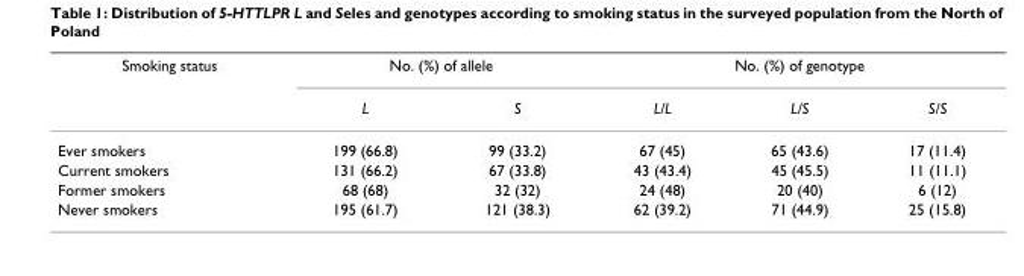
<table><thead><tr><td rowspan="2">Smoking status</td><td colspan="2">No. (%) of allele</td><td colspan="3">No. (%) of genotype</td></tr><tr><td>L</td><td>S</td><td>L/L</td><td>L/S</td><td>S/S</td></tr></thead><tbody><tr><td>Ever smokers</td><td>199 (66.8)</td><td>99 (33.2)</td><td>67 (45)</td><td>65 (43.6)</td><td>17 (11.4)</td></tr><tr><td>Current smokers</td><td>131 (66.2)</td><td>67 (33.8)</td><td>43 (43.4)</td><td>45 (45.5)</td><td>11 (11.1)</td></tr><tr><td>Former smokers</td><td>68 (68)</td><td>32 (32)</td><td>24 (48)</td><td>20 (40)</td><td>6 (12)</td></tr><tr><td>Never smokers</td><td>195 (61.7)</td><td>121 (38.3)</td><td>62 (39.2)</td><td>71 (44.9)</td><td>25 (15.8)</td></tr></tbody></table>